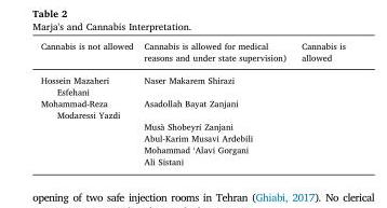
<table><thead><tr><td>Cannabis is not allowed</td><td>Cannabis is allowed for medical reasons and under state supervision)</td><td>Cannabis is allowed</td></tr></thead><tbody><tr><td>Hossein Mazaheri Esfehani</td><td>Naser Makarem Shirazi</td><td></td></tr><tr><td rowspan="5">Mohammad-Reza Modaressi Yazdi</td><td>Asadollah Bayat Zanjani</td><td></td></tr><tr><td>Musà Shobeyri Zanjani</td><td></td></tr><tr><td>Abul-Karim Musavi Ardebili</td><td></td></tr><tr><td>Mohammad ‘Alavi Gorgani</td><td></td></tr><tr><td>Ali Sistani</td><td></td></tr></tbody></table>